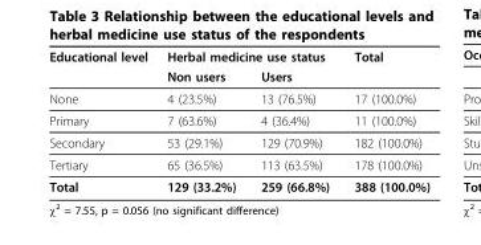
<table><thead><tr><td rowspan="2">Educational level</td><td colspan="2">Herbal medicine use status</td><td rowspan="2">Total</td></tr><tr><td>Non users</td><td>Users</td></tr></thead><tbody><tr><td>None</td><td>4 (23.5%)</td><td>13 (76.5%)</td><td>17 (100.0%)</td></tr><tr><td>Primary</td><td>7 (63.6%)</td><td>4 (36.4%)</td><td>11 (100.0%)</td></tr><tr><td>Secondary</td><td>53 (29.1%)</td><td>129 (70.9%)</td><td>182 (100.0%)</td></tr><tr><td>Tertiary</td><td>65 (36.5%)</td><td>113 (63.5%)</td><td>178 (100.0%)</td></tr><tr><td>Total</td><td>129 (33.2%)</td><td>259 (66.8%)</td><td>388 (100.0%)</td></tr></tbody></table>